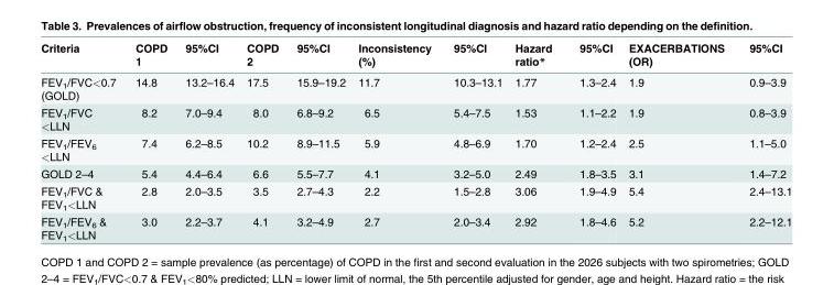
<table><thead><tr><td>Criteria</td><td>COPD 1</td><td>95%CI</td><td>COPD 2</td><td>95%CI</td><td>Inconsistency (%)</td><td>95%CI</td><td>Hazard ratio*</td><td>95%CI</td><td>EXACERBATIONS (OR)</td><td>95%CI</td></tr></thead><tbody><tr><td>FEV<sub>1</sub>/FVC&lt;0.7 (GOLD)</td><td>14.8</td><td>13.2–16.4</td><td>17.5</td><td>15.9–19.2</td><td>11.7</td><td>10.3–13.1</td><td>1.77</td><td>1.3–2.4</td><td>1.9</td><td>0.9–3.9</td></tr><tr><td>FEV<sub>1</sub>/FVC &lt;LLN</td><td>8.2</td><td>7.0–9.4</td><td>8.0</td><td>6.8–9.2</td><td>6.5</td><td>5.4–7.5</td><td>1.53</td><td>1.1–2.2</td><td>1.9</td><td>0.8–3.9</td></tr><tr><td>FEV<sub>1</sub>/FEV<sub>6</sub> &lt;LLN</td><td>7.4</td><td>6.2–8.5</td><td>10.2</td><td>8.9–11.5</td><td>5.9</td><td>4.8–6.9</td><td>1.70</td><td>1.2–2.4</td><td>2.5</td><td>1.1–5.0</td></tr><tr><td>GOLD 2–4</td><td>5.4</td><td>4.4–6.4</td><td>6.6</td><td>5.5–7.7</td><td>4.1</td><td>3.2–5.0</td><td>2.49</td><td>1.8–3.5</td><td>3.1</td><td>1.4–7.2</td></tr><tr><td>FEV<sub>1</sub>/FVC &amp; FEV<sub>1</sub>&lt;LLN</td><td>2.8</td><td>2.0–3.5</td><td>3.5</td><td>2.7–4.3</td><td>2.2</td><td>1.5–2.8</td><td>3.06</td><td>1.9–4.9</td><td>5.4</td><td>2.4–13.1</td></tr><tr><td>FEV<sub>1</sub>/FEV<sub>6</sub> &amp; FEV<sub>1</sub>&lt;LLN</td><td>3.0</td><td>2.2–3.7</td><td>4.1</td><td>3.2–4.9</td><td>2.7</td><td>2.0–3.4</td><td>2.92</td><td>1.8–4.6</td><td>5.2</td><td>2.2–12.1</td></tr></tbody></table>